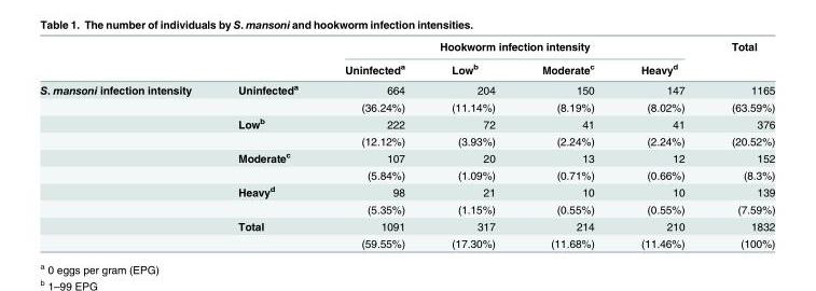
<table><thead><tr><td rowspan="2"></td><td rowspan="2"></td><td colspan="4">Hookworm infection intensity</td><td rowspan="2">Total</td></tr><tr><td>Uninfected<sup>a</sup></td><td>Low<sup>b</sup></td><td>Moderate<sup>c</sup></td><td>Heavy<sup>d</sup></td></tr></thead><tbody><tr><td rowspan="10">S. mansoni infection intensity</td><td>Uninfected<sup>a</sup></td><td>664</td><td>204</td><td>150</td><td>147</td><td>1165</td></tr><tr><td></td><td>(36.24%)</td><td>(11.14%)</td><td>(8.19%)</td><td>(8.02%)</td><td>(63.59%)</td></tr><tr><td>Low<sup>b</sup></td><td>222</td><td>72</td><td>41</td><td>41</td><td>376</td></tr><tr><td></td><td>(12.12%)</td><td>(3.93%)</td><td>(2.24%)</td><td>(2.24%)</td><td>(20.52%)</td></tr><tr><td>Moderate<sup>c</sup></td><td>107</td><td>20</td><td>13</td><td>12</td><td>152</td></tr><tr><td></td><td>(5.84%)</td><td>(1.09%)</td><td>(0.71%)</td><td>(0.66%)</td><td>(8.3%)</td></tr><tr><td>Heavy<sup>d</sup></td><td>98</td><td>21</td><td>10</td><td>10</td><td>139</td></tr><tr><td></td><td>(5.35%)</td><td>(1.15%)</td><td>(0.55%)</td><td>(0.55%)</td><td>(7.59%)</td></tr><tr><td>Total</td><td>1091</td><td>317</td><td>214</td><td>210</td><td>1832</td></tr><tr><td></td><td>(59.55%)</td><td>(17.30%)</td><td>(11.68%)</td><td>(11.46%)</td><td>(100%)</td></tr></tbody></table>